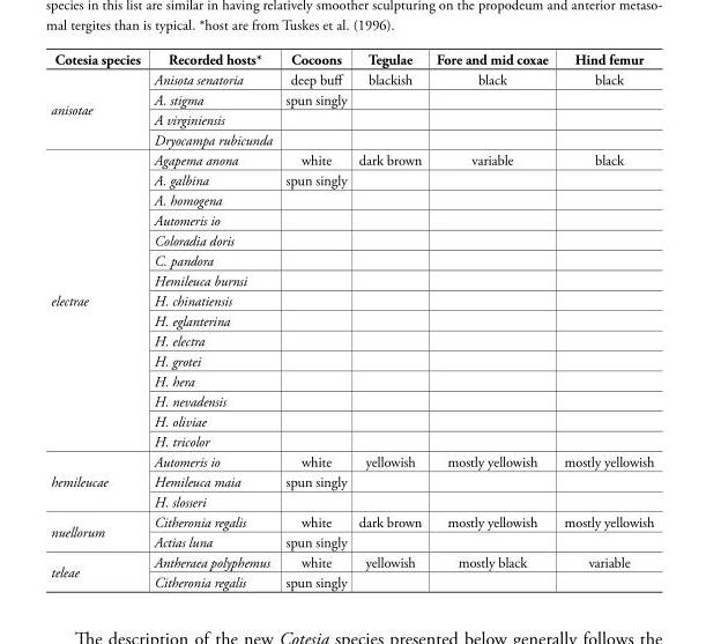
<table><thead><tr><td>Cotesia species</td><td>Recorded hosts*</td><td>Cocoons</td><td>Tegulae</td><td>Fore and mid coxae</td><td>Hind femur</td></tr></thead><tbody><tr><td rowspan="4">anisotae</td><td>Anisota senatoria</td><td>deep buff</td><td>blackish</td><td>black</td><td>black</td></tr><tr><td>A. stigma</td><td>spun singly</td><td></td><td></td><td></td></tr><tr><td>A virginiensis</td><td></td><td></td><td></td><td></td></tr><tr><td>Dryocampa rubicunda</td><td></td><td></td><td></td><td></td></tr><tr><td rowspan="15">electrae</td><td>Agapema anona</td><td>white</td><td>dark brown</td><td>variable</td><td>black</td></tr><tr><td>A. galbina</td><td>spun singly</td><td></td><td></td><td></td></tr><tr><td>A. homogena</td><td></td><td></td><td></td><td></td></tr><tr><td>Automeris io</td><td></td><td></td><td></td><td></td></tr><tr><td>Coloradia doris</td><td></td><td></td><td></td><td></td></tr><tr><td>C. pandora</td><td></td><td></td><td></td><td></td></tr><tr><td>Hemileuca burnsi</td><td></td><td></td><td></td><td></td></tr><tr><td>H. chinatiensis</td><td></td><td></td><td></td><td></td></tr><tr><td>H. eglanterina</td><td></td><td></td><td></td><td></td></tr><tr><td>H. electra</td><td></td><td></td><td></td><td></td></tr><tr><td>H. grotei</td><td></td><td></td><td></td><td></td></tr><tr><td>H. hera</td><td></td><td></td><td></td><td></td></tr><tr><td>H. nevadensis</td><td></td><td></td><td></td><td></td></tr><tr><td>H. oliviae</td><td></td><td></td><td></td><td></td></tr><tr><td>H. tricolor</td><td></td><td></td><td></td><td></td></tr><tr><td rowspan="3">hemileucae</td><td>Automeris io</td><td>white</td><td>yellowish</td><td>mostly yellowish</td><td>mostly yellowish</td></tr><tr><td>Hemileuca maia</td><td>spun singly</td><td></td><td></td><td></td></tr><tr><td>H. slosseri</td><td></td><td></td><td></td><td></td></tr><tr><td rowspan="2">nuellorum</td><td>Citheronia regalis</td><td>white</td><td>dark brown</td><td>mostly yellowish</td><td>mostly yellowish</td></tr><tr><td>Actias luna</td><td>spun singly</td><td></td><td></td><td></td></tr><tr><td rowspan="2">teleae</td><td>Antheraea polyphemus</td><td>white</td><td>yellowish</td><td>mostly black</td><td>variable</td></tr><tr><td>Citheronia regalis</td><td>spun singly</td><td></td><td></td><td></td></tr></tbody></table>